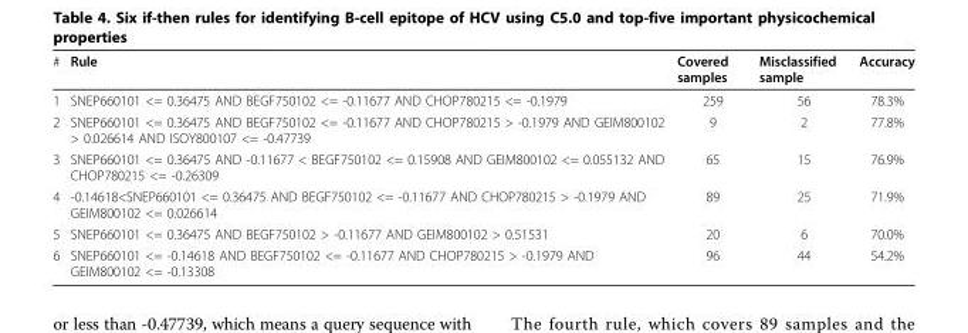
<table><thead><tr><td>#</td><td>Rule</td><td>Covered samples</td><td>Misclassified sample</td><td>Accuracy</td></tr></thead><tbody><tr><td>1</td><td>SNEP660101 &lt;= 0.36475 AND BEGF750102 &lt;= -0.11677 AND CHOP780215 &lt;= -0.1979</td><td>259</td><td>56</td><td>78.3%</td></tr><tr><td>2</td><td>SNEP660101 &lt;= 0.36475 AND BEGF750102 &lt;= -0.11677 AND CHOP780215 &gt; -0.1979 AND GEIM800102 &gt; 0.026614 AND ISOY800107 &lt;= -0.47739</td><td>9</td><td>2</td><td>77.8%</td></tr><tr><td>3</td><td>SNEP660101 &lt;= 0.36475 AND -0.11677 &lt; BEGF750102 &lt;= 0.15908 AND GEIM800102 &lt;= 0.055132 AND CHOP780215 &lt;= -0.26309</td><td>65</td><td>15</td><td>76.9%</td></tr><tr><td>4</td><td>-0.14618&lt;SNEP660101 &lt;= 0.36475 AND BEGF750102 &lt;= -0.11677 AND CHOP780215 &gt; -0.1979 AND GEIM800102 &lt;= 0.026614</td><td>89</td><td>25</td><td>71.9%</td></tr><tr><td>5</td><td>SNEP660101 &lt;= 0.36475 AND BEGF750102 &gt; -0.11677 AND GEIM800102 &gt; 0.51531</td><td>20</td><td>6</td><td>70.0%</td></tr><tr><td>6</td><td>SNEP660101 &lt;= -0.14618 AND BEGF750102 &lt;= -0.11677 AND CHOP780215 &gt; -0.1979 AND GEIM800102 &lt;= -0.13308</td><td>96</td><td>44</td><td>54.2%</td></tr></tbody></table>